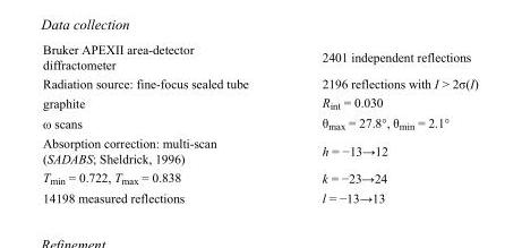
<table><tbody><tr><td>Bruker APEXII area-detector diffractometer</td><td>2401 independent reflections</td></tr><tr><td>Radiation source: fine-focus sealed tube</td><td>2196 reflections with I &gt; 2σ(I)</td></tr><tr><td>graphite</td><td>R<sub>int</sub> = 0.030</td></tr><tr><td>ω scans</td><td>θ<sub>max</sub> = 27.8°, θ<sub>min</sub> = 2.1°</td></tr><tr><td>Absorption correction: multi-scan (SADABS; Sheldrick, 1996)</td><td>h = −13→12</td></tr><tr><td>T<sub>min</sub> = 0.722, T<sub>max</sub> = 0.838</td><td>k = −23→24</td></tr><tr><td>14198 measured reflections</td><td>l = −13→13</td></tr></tbody></table>